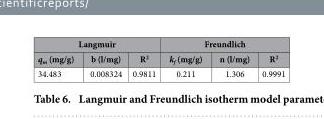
<table><thead><tr><td colspan="3">Langmuir</td><td colspan="3">Freundlich</td></tr><tr><td>q<sub>m</sub> (mg/g)</td><td>b (l/mg)</td><td>R<sup>2</sup></td><td>k<sub>f</sub> (mg/g)</td><td>n (l/mg)</td><td>R<sup>2</sup></td></tr></thead><tbody><tr><td>34.483</td><td>0.008324</td><td>0.9811</td><td>0.211</td><td>1.306</td><td>0.9991</td></tr></tbody></table>